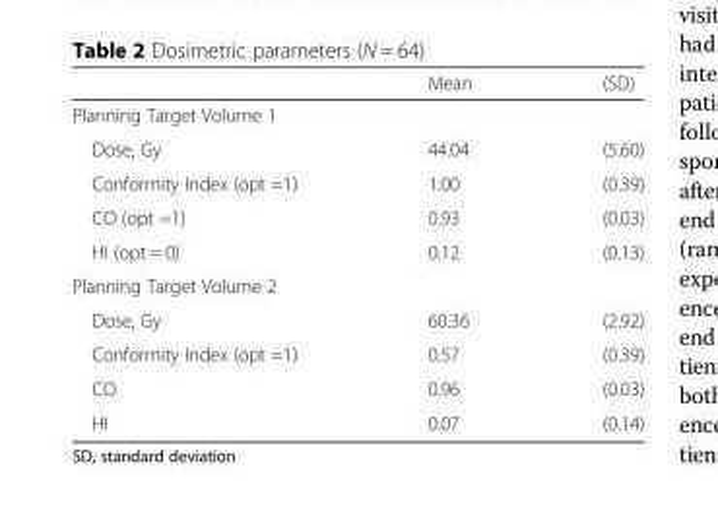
<table><thead><tr><td></td><td>Mean</td><td>(SD)</td></tr></thead><tbody><tr><td colspan="3">Planning Target Volume 1</td></tr><tr><td>Dose, Gy</td><td>44.04</td><td>(5.60)</td></tr><tr><td>Conformity Index (opt =1)</td><td>1.00</td><td>(0.39)</td></tr><tr><td>CO (opt =1)</td><td>0.93</td><td>(0.03)</td></tr><tr><td>HI (opt = 0)</td><td>0.12</td><td>(0.13)</td></tr><tr><td colspan="3">Planning Target Volume 2</td></tr><tr><td>Dose, Gy</td><td>60.36</td><td>(2.92)</td></tr><tr><td>Conformity Index (opt =1)</td><td>0.57</td><td>(0.39)</td></tr><tr><td>CO</td><td>0.96</td><td>(0.03)</td></tr><tr><td>HI</td><td>0.07</td><td>(0.14)</td></tr></tbody></table>